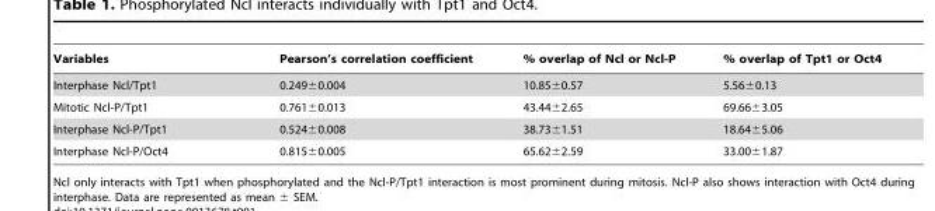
<table><thead><tr><td>Variables</td><td>Pearson’s correlation coefficient</td><td>% overlap of Ncl or Ncl-P</td><td>% overlap of Tpt1 or Oct4</td></tr></thead><tbody><tr><td>Interphase Ncl/Tpt1</td><td>0.249±0.004</td><td>10.85±0.57</td><td>5.56±0.13</td></tr><tr><td>Mitotic Ncl-P/Tpt1</td><td>0.761±0.013</td><td>43.44±2.65</td><td>69.66±3.05</td></tr><tr><td>Interphase Ncl-P/Tpt1</td><td>0.524±0.008</td><td>38.73±1.51</td><td>18.64±5.06</td></tr><tr><td>Interphase Ncl-P/Oct4</td><td>0.815±0.005</td><td>65.62±2.59</td><td>33.00±1.87</td></tr></tbody></table>